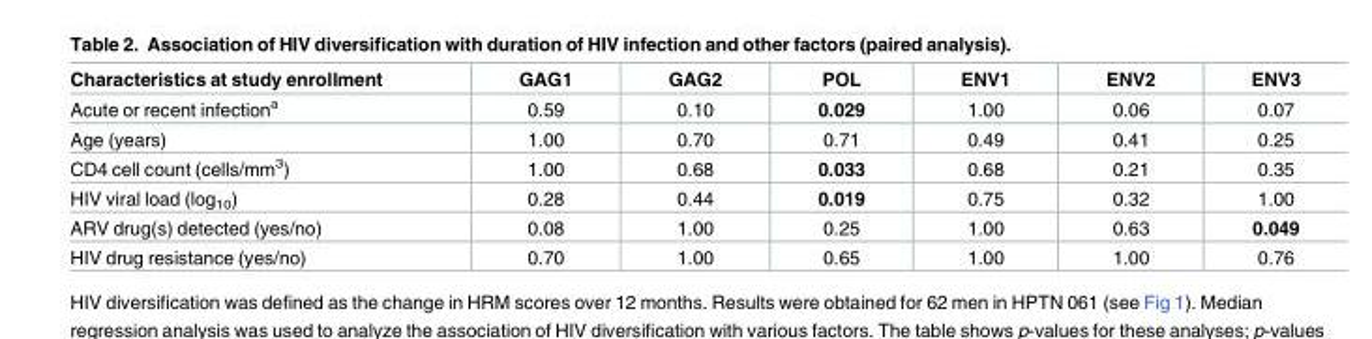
<table><thead><tr><td>Characteristics at study enrollment</td><td>GAG1</td><td>GAG2</td><td>POL</td><td>ENV1</td><td>ENV2</td><td>ENV3</td></tr></thead><tbody><tr><td>Acute or recent infection<sup>a</sup></td><td>0.59</td><td>0.10</td><td>0.029</td><td>1.00</td><td>0.06</td><td>0.07</td></tr><tr><td>Age (years)</td><td>1.00</td><td>0.70</td><td>0.71</td><td>0.49</td><td>0.41</td><td>0.25</td></tr><tr><td>CD4 cell count (cells/mm<sup>3</sup>)</td><td>1.00</td><td>0.68</td><td>0.033</td><td>0.68</td><td>0.21</td><td>0.35</td></tr><tr><td>HIV viral load (log<sub>10</sub>)</td><td>0.28</td><td>0.44</td><td>0.019</td><td>0.75</td><td>0.32</td><td>1.00</td></tr><tr><td>ARV drug(s) detected (yes/no)</td><td>0.08</td><td>1.00</td><td>0.25</td><td>1.00</td><td>0.63</td><td>0.049</td></tr><tr><td>HIV drug resistance (yes/no)</td><td>0.70</td><td>1.00</td><td>0.65</td><td>1.00</td><td>1.00</td><td>0.76</td></tr></tbody></table>